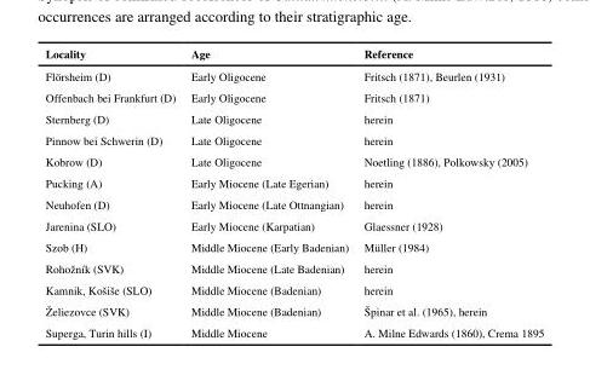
<table><thead><tr><td>Locality</td><td>Age</td><td>Reference</td></tr></thead><tbody><tr><td>Flörsheim (D)</td><td>Early Oligocene</td><td>Fritsch (1871), Beurlen (1931)</td></tr><tr><td>Offenbach bei Frankfurt (D)</td><td>Early Oligocene</td><td>Fritsch (1871)</td></tr><tr><td>Sternberg (D)</td><td>Late Oligocene</td><td>herein</td></tr><tr><td>Pinnow bei Schwerin (D)</td><td>Late Oligocene</td><td>herein</td></tr><tr><td>Kobrow (D)</td><td>Late Oligocene</td><td>Noetling (1886), Polkowsky (2005)</td></tr><tr><td>Pucking (A)</td><td>Early Miocene (Late Egerian)</td><td>herein</td></tr><tr><td>Neuhofen (D)</td><td>Early Miocene (Late Ottnangian)</td><td>herein</td></tr><tr><td>Jarenina (SLO)</td><td>Early Miocene (Karpatian)</td><td>Glaessner (1928)</td></tr><tr><td>Szob (H)</td><td>Middle Miocene (Early Badenian)</td><td>Müller (1984)</td></tr><tr><td>Rohožník (SVK)</td><td>Middle Miocene (Late Badenian)</td><td>herein</td></tr><tr><td>Kamnik, Košiše (SLO)</td><td>Middle Miocene (Badenian)</td><td>herein</td></tr><tr><td>Želiezovce (SVK)</td><td>Middle Miocene (Badenian)</td><td>Špinar et al. (1965), herein</td></tr><tr><td>Superga, Turin hills (I)</td><td>Middle Miocene</td><td>A. Milne Edwards (1860), Crema 1895</td></tr></tbody></table>